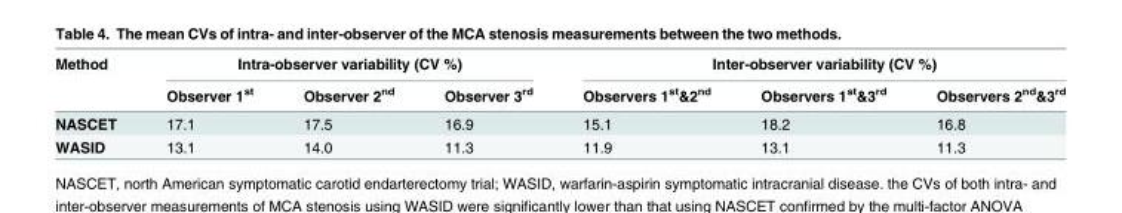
<table><thead><tr><td rowspan="2">Method</td><td colspan="3">Intra-observer variability (CV %)</td><td colspan="3">Inter-observer variability (CV %)</td></tr><tr><td>Observer 1<sup>st</sup></td><td>Observer 2<sup>nd</sup></td><td>Observer 3<sup>rd</sup></td><td>Observers 1<sup>st</sup>&amp;2<sup>nd</sup></td><td>Observers 1<sup>st</sup>&amp;3<sup>rd</sup></td><td>Observers 2<sup>nd</sup>&amp;3<sup>rd</sup></td></tr></thead><tbody><tr><td>NASCET</td><td>17.1</td><td>17.5</td><td>16.9</td><td>15.1</td><td>18.2</td><td>16.8</td></tr><tr><td>WASID</td><td>13.1</td><td>14.0</td><td>11.3</td><td>11.9</td><td>13.1</td><td>11.3</td></tr></tbody></table>